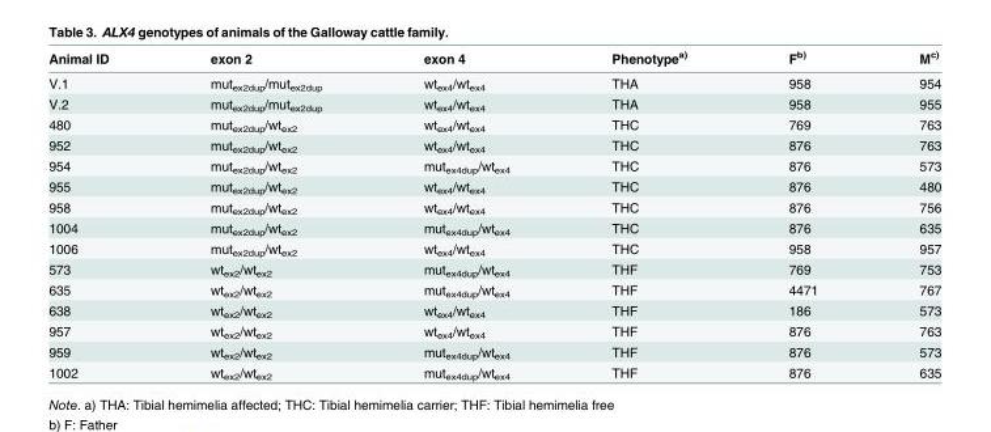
<table><thead><tr><td>Animal ID</td><td>exon 2</td><td>exon 4</td><td>Phenotype<sup>a)</sup></td><td>F<sup>b)</sup></td><td>M<sup>c)</sup></td></tr></thead><tbody><tr><td>V.1</td><td>mut<sub>ex2dup</sub>/mut<sub>ex2dup</sub></td><td>wt<sub>ex4</sub>/wt<sub>ex4</sub></td><td>THA</td><td>958</td><td>954</td></tr><tr><td>V.2</td><td>mut<sub>ex2dup</sub>/mut<sub>ex2dup</sub></td><td>wt<sub>ex4</sub>/wt<sub>ex4</sub></td><td>THA</td><td>958</td><td>955</td></tr><tr><td>480</td><td>mut<sub>ex2dup</sub>/wt<sub>ex2</sub></td><td>wt<sub>ex4</sub>/wt<sub>ex4</sub></td><td>THC</td><td>769</td><td>763</td></tr><tr><td>952</td><td>mut<sub>ex2dup</sub>/wt<sub>ex2</sub></td><td>wt<sub>ex4</sub>/wt<sub>ex4</sub></td><td>THC</td><td>876</td><td>763</td></tr><tr><td>954</td><td>mut<sub>ex2dup</sub>/wt<sub>ex2</sub></td><td>mut<sub>ex4dup</sub>/wt<sub>ex4</sub></td><td>THC</td><td>876</td><td>573</td></tr><tr><td>955</td><td>mut<sub>ex2dup</sub>/wt<sub>ex2</sub></td><td>wt<sub>ex4</sub>/wt<sub>ex4</sub></td><td>THC</td><td>876</td><td>480</td></tr><tr><td>958</td><td>mut<sub>ex2dup</sub>/wt<sub>ex2</sub></td><td>wt<sub>ex4</sub>/wt<sub>ex4</sub></td><td>THC</td><td>876</td><td>756</td></tr><tr><td>1004</td><td>mut<sub>ex2dup</sub>/wt<sub>ex2</sub></td><td>mut<sub>ex4dup</sub>/wt<sub>ex4</sub></td><td>THC</td><td>876</td><td>635</td></tr><tr><td>1006</td><td>mut<sub>ex2dup</sub>/wt<sub>ex2</sub></td><td>wt<sub>ex4</sub>/wt<sub>ex4</sub></td><td>THC</td><td>958</td><td>957</td></tr><tr><td>573</td><td>wt<sub>ex2</sub>/wt<sub>ex2</sub></td><td>mut<sub>ex4dup</sub>/wt<sub>ex4</sub></td><td>THF</td><td>769</td><td>753</td></tr><tr><td>635</td><td>wt<sub>ex2</sub>/wt<sub>ex2</sub></td><td>mut<sub>ex4dup</sub>/wt<sub>ex4</sub></td><td>THF</td><td>4471</td><td>767</td></tr><tr><td>638</td><td>wt<sub>ex2</sub>/wt<sub>ex2</sub></td><td>wt<sub>ex4</sub>/wt<sub>ex4</sub></td><td>THF</td><td>186</td><td>573</td></tr><tr><td>957</td><td>wt<sub>ex2</sub>/wt<sub>ex2</sub></td><td>wt<sub>ex4</sub>/wt<sub>ex4</sub></td><td>THF</td><td>876</td><td>763</td></tr><tr><td>959</td><td>wt<sub>ex2</sub>/wt<sub>ex2</sub></td><td>mut<sub>ex4dup</sub>/wt<sub>ex4</sub></td><td>THF</td><td>876</td><td>573</td></tr><tr><td>1002</td><td>wt<sub>ex2</sub>/wt<sub>ex2</sub></td><td>mut<sub>ex4dup</sub>/wt<sub>ex4</sub></td><td>THF</td><td>876</td><td>635</td></tr></tbody></table>